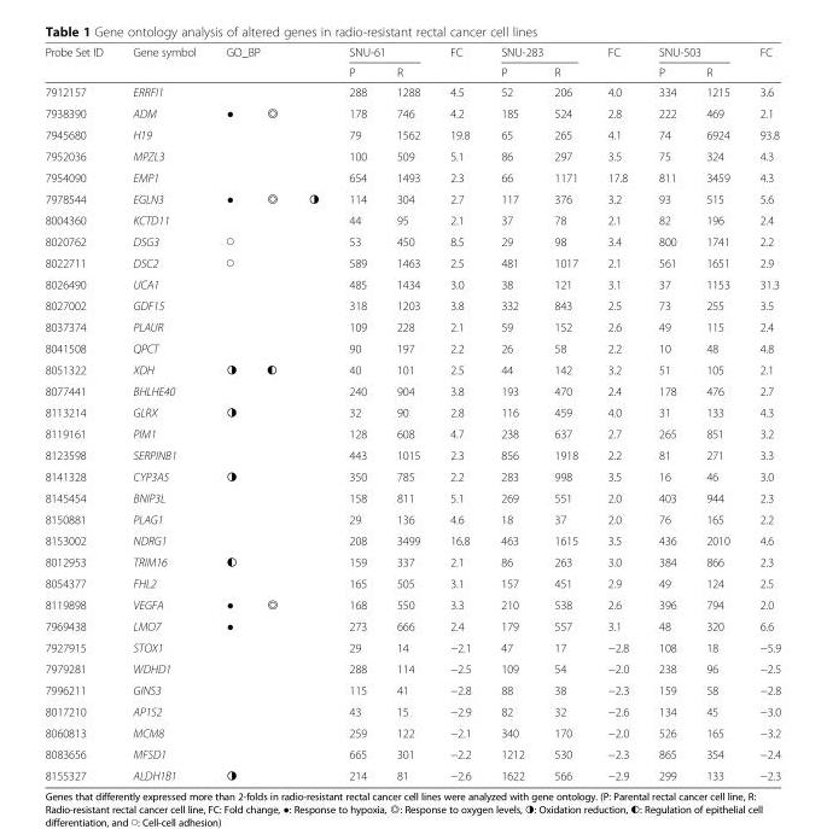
<table><thead><tr><td rowspan="3">Probe Set ID 7912157</td><td rowspan="3">Gene symbol ERRFI1</td><td rowspan="2" colspan="3">GO_BP</td><td colspan="2">SNU-61</td><td rowspan="3">FC 4.5</td><td colspan="2">SNU-283</td><td rowspan="3">FC 4.0</td><td colspan="2">SNU-503</td><td rowspan="3">FC 3.6</td></tr><tr><td rowspan="2">P 288</td><td rowspan="2">R 1288</td><td rowspan="2">P 52</td><td rowspan="2">R 206</td><td rowspan="2">P 334</td><td rowspan="2">R 1215</td></tr><tr><td></td><td></td><td></td></tr></thead><tbody><tr><td>7938390</td><td>ADM</td><td>●</td><td>◎</td><td></td><td>178</td><td>746</td><td>4.2</td><td>185</td><td>524</td><td>2.8</td><td>222</td><td>469</td><td>2.1</td></tr><tr><td>7945680</td><td>H19</td><td></td><td></td><td></td><td>79</td><td>1562</td><td>19.8</td><td>65</td><td>265</td><td>4.1</td><td>74</td><td>6924</td><td>93.8</td></tr><tr><td>7952036</td><td>MPZL3</td><td></td><td></td><td></td><td>100</td><td>509</td><td>5.1</td><td>86</td><td>297</td><td>3.5</td><td>75</td><td>324</td><td>4.3</td></tr><tr><td>7954090</td><td>EMP1</td><td></td><td></td><td></td><td>654</td><td>1493</td><td>2.3</td><td>66</td><td>1171</td><td>17.8</td><td>811</td><td>3459</td><td>4.3</td></tr><tr><td>7978544</td><td>EGLN3</td><td>●</td><td>◎</td><td>◑</td><td>114</td><td>304</td><td>2.7</td><td>117</td><td>376</td><td>3.2</td><td>93</td><td>515</td><td>5.6</td></tr><tr><td>8004360</td><td>KCTD11</td><td></td><td></td><td></td><td>44</td><td>95</td><td>2.1</td><td>37</td><td>78</td><td>2.1</td><td>82</td><td>196</td><td>2.4</td></tr><tr><td>8020762</td><td>DSG3</td><td>◯</td><td></td><td></td><td>53</td><td>450</td><td>8.5</td><td>29</td><td>98</td><td>3.4</td><td>800</td><td>1741</td><td>2.2</td></tr><tr><td>8022711</td><td>DSC2</td><td>◯</td><td></td><td></td><td>589</td><td>1463</td><td>2.5</td><td>481</td><td>1017</td><td>2.1</td><td>561</td><td>1651</td><td>2.9</td></tr><tr><td>8026490</td><td>UCA1</td><td></td><td></td><td></td><td>485</td><td>1434</td><td>3.0</td><td>38</td><td>121</td><td>3.1</td><td>37</td><td>1153</td><td>31.3</td></tr><tr><td>8027002</td><td>GDF15</td><td></td><td></td><td></td><td>318</td><td>1203</td><td>3.8</td><td>332</td><td>843</td><td>2.5</td><td>73</td><td>255</td><td>3.5</td></tr><tr><td>8037374</td><td>PLAUR</td><td></td><td></td><td></td><td>109</td><td>228</td><td>2.1</td><td>59</td><td>152</td><td>2.6</td><td>49</td><td>115</td><td>2.4</td></tr><tr><td>8041508</td><td>QPCT</td><td></td><td></td><td></td><td>90</td><td>197</td><td>2.2</td><td>26</td><td>58</td><td>2.2</td><td>10</td><td>48</td><td>4.8</td></tr><tr><td>8051322</td><td>XDH</td><td>◑</td><td>◐</td><td></td><td>40</td><td>101</td><td>2.5</td><td>44</td><td>142</td><td>3.2</td><td>51</td><td>105</td><td>2.1</td></tr><tr><td>8077441</td><td>BHLHE40</td><td></td><td></td><td></td><td>240</td><td>904</td><td>3.8</td><td>193</td><td>470</td><td>2.4</td><td>178</td><td>476</td><td>2.7</td></tr><tr><td>8113214</td><td>GLRX</td><td>◑</td><td></td><td></td><td>32</td><td>90</td><td>2.8</td><td>116</td><td>459</td><td>4.0</td><td>31</td><td>133</td><td>4.3</td></tr><tr><td>8119161</td><td>PIM1</td><td></td><td></td><td></td><td>128</td><td>608</td><td>4.7</td><td>238</td><td>637</td><td>2.7</td><td>265</td><td>851</td><td>3.2</td></tr><tr><td>8123598</td><td>SERPINB1</td><td></td><td></td><td></td><td>443</td><td>1015</td><td>2.3</td><td>856</td><td>1918</td><td>2.2</td><td>81</td><td>271</td><td>3.3</td></tr><tr><td>8141328</td><td>CYP3A5</td><td>◑</td><td></td><td></td><td>350</td><td>785</td><td>2.2</td><td>283</td><td>998</td><td>3.5</td><td>16</td><td>46</td><td>3.0</td></tr><tr><td>8145454</td><td>BNIP3L</td><td></td><td></td><td></td><td>158</td><td>811</td><td>5.1</td><td>269</td><td>551</td><td>2.0</td><td>403</td><td>944</td><td>2.3</td></tr><tr><td>8150881</td><td>PLAG1</td><td></td><td></td><td></td><td>29</td><td>136</td><td>4.6</td><td>18</td><td>37</td><td>2.0</td><td>76</td><td>165</td><td>2.2</td></tr><tr><td>8153002</td><td>NDRG1</td><td></td><td></td><td></td><td>208</td><td>3499</td><td>16.8</td><td>463</td><td>1615</td><td>3.5</td><td>436</td><td>2010</td><td>4.6</td></tr><tr><td>8012953</td><td>TRIM16</td><td>◐</td><td></td><td></td><td>159</td><td>337</td><td>2.1</td><td>86</td><td>263</td><td>3.0</td><td>384</td><td>866</td><td>2.3</td></tr><tr><td>8054377</td><td>FHL2</td><td></td><td></td><td></td><td>165</td><td>505</td><td>3.1</td><td>157</td><td>451</td><td>2.9</td><td>49</td><td>124</td><td>2.5</td></tr><tr><td>8119898</td><td>VEGFA</td><td>●</td><td>◎</td><td></td><td>168</td><td>550</td><td>3.3</td><td>210</td><td>538</td><td>2.6</td><td>396</td><td>794</td><td>2.0</td></tr><tr><td>7969438</td><td>LMO7</td><td>●</td><td></td><td></td><td>273</td><td>666</td><td>2.4</td><td>179</td><td>557</td><td>3.1</td><td>48</td><td>320</td><td>6.6</td></tr><tr><td>7927915</td><td>STOX1</td><td></td><td></td><td></td><td>29</td><td>14</td><td>−2.1</td><td>47</td><td>17</td><td>−2.8</td><td>108</td><td>18</td><td>−5.9</td></tr><tr><td>7979281</td><td>WDHD1</td><td></td><td></td><td></td><td>288</td><td>114</td><td>−2.5</td><td>109</td><td>54</td><td>−2.0</td><td>238</td><td>96</td><td>−2.5</td></tr><tr><td>7996211</td><td>GINS3</td><td></td><td></td><td></td><td>115</td><td>41</td><td>−2.8</td><td>88</td><td>38</td><td>−2.3</td><td>159</td><td>58</td><td>−2.8</td></tr><tr><td>8017210</td><td>AP1S2</td><td></td><td></td><td></td><td>43</td><td>15</td><td>−2.9</td><td>82</td><td>32</td><td>−2.6</td><td>134</td><td>45</td><td>−3.0</td></tr><tr><td>8060813</td><td>MCM8</td><td></td><td></td><td></td><td>259</td><td>122</td><td>−2.1</td><td>340</td><td>170</td><td>−2.0</td><td>526</td><td>165</td><td>−3.2</td></tr><tr><td>8083656</td><td>MFSD1</td><td></td><td></td><td></td><td>665</td><td>301</td><td>−2.2</td><td>1212</td><td>530</td><td>−2.3</td><td>865</td><td>354</td><td>−2.4</td></tr><tr><td>8155327</td><td>ALDH1B1</td><td>◑</td><td></td><td></td><td>214</td><td>81</td><td>−2.6</td><td>1622</td><td>566</td><td>−2.9</td><td>299</td><td>133</td><td>−2.3</td></tr></tbody></table>